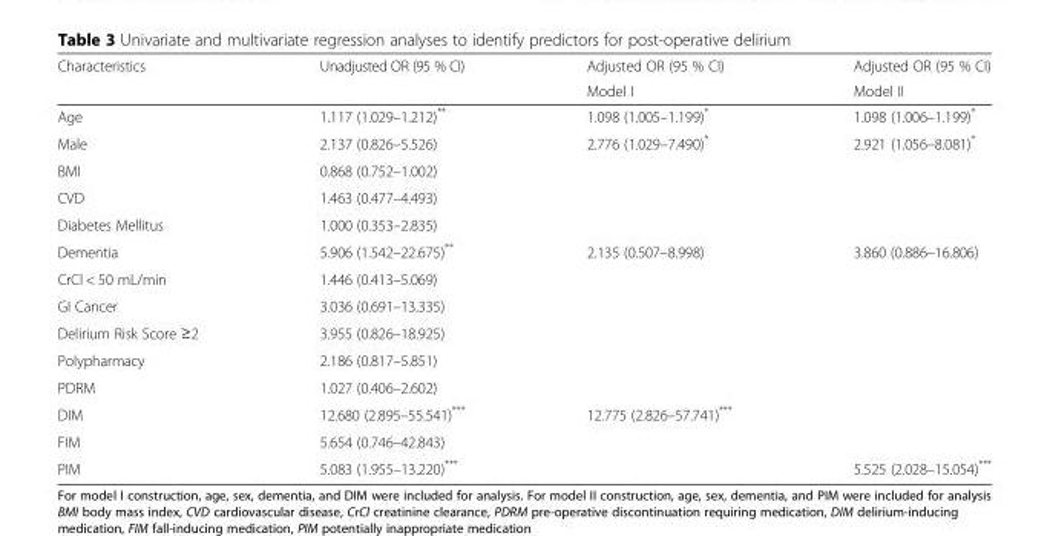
<table><thead><tr><td rowspan="2">Characteristics</td><td rowspan="2">Unadjusted OR (95 % CI)</td><td rowspan="2">Adjusted OR (95 % CI) Model I</td><td rowspan="2">Adjusted OR (95 % CI) Model II</td></tr><tr></tr></thead><tbody><tr><td>Age</td><td>1.117 (1.029–1.212)**</td><td>1.098 (1.005–1.199)*</td><td>1.098 (1.006–1.199)*</td></tr><tr><td>Male</td><td>2.137 (0.826–5.526)</td><td>2.776 (1.029–7.490)*</td><td>2.921 (1.056–8.081)*</td></tr><tr><td>BMI</td><td>0.868 (0.752–1.002)</td><td></td><td></td></tr><tr><td>CVD</td><td>1.463 (0.477–4.493)</td><td></td><td></td></tr><tr><td>Diabetes Mellitus</td><td>1.000 (0.353–2.835)</td><td></td><td></td></tr><tr><td>Dementia</td><td>5.906 (1.542–22.675)**</td><td>2.135 (0.507–8.998)</td><td>3.860 (0.886–16.806)</td></tr><tr><td>CrCl &lt; 50 mL/min</td><td>1.446 (0.413–5.069)</td><td></td><td></td></tr><tr><td>GI Cancer</td><td>3.036 (0.691–13.335)</td><td></td><td></td></tr><tr><td>Delirium Risk Score ≥2</td><td>3.955 (0.826–18.925)</td><td></td><td></td></tr><tr><td>Polypharmacy</td><td>2.186 (0.817–5.851)</td><td></td><td></td></tr><tr><td>PDRM</td><td>1.027 (0.406–2.602)</td><td></td><td></td></tr><tr><td>DIM</td><td>12.680 (2.895–55.541)***</td><td>12.775 (2.826–57.741)***</td><td></td></tr><tr><td>FIM</td><td>5.654 (0.746–42.843)</td><td></td><td></td></tr><tr><td>PIM</td><td>5.083 (1.955–13.220)***</td><td></td><td>5.525 (2.028–15.054)***</td></tr></tbody></table>